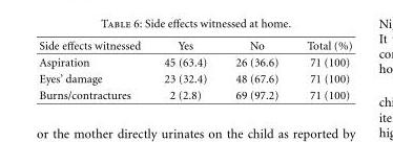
<table><thead><tr><td>Side effects witnessed</td><td>Yes</td><td>No</td><td>Total (%)</td></tr></thead><tbody><tr><td>Aspiration</td><td>45 (63.4)</td><td>26 (36.6)</td><td>71 (100)</td></tr><tr><td>Eyes’ damage</td><td>23 (32.4)</td><td>48 (67.6)</td><td>71 (100)</td></tr><tr><td>Burns/contractures</td><td>2 (2.8)</td><td>69 (97.2)</td><td>71 (100)</td></tr></tbody></table>